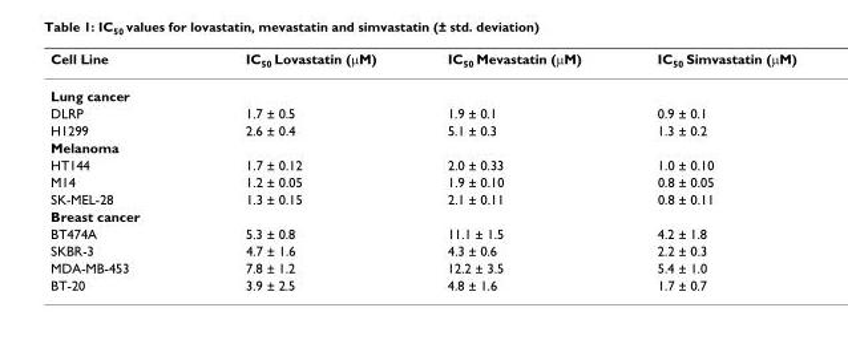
<table><thead><tr><td>Cell Line</td><td>IC<sub>50</sub> Lovastatin (μM)</td><td>IC<sub>50</sub> Mevastatin (μM)</td><td>IC<sub>50</sub> Simvastatin (μM)</td></tr></thead><tbody><tr><td colspan="4">Lung cancer</td></tr><tr><td>DLRP</td><td>1.7 ± 0.5</td><td>1.9 ± 0.1</td><td>0.9 ± 0.1</td></tr><tr><td>H1299</td><td>2.6 ± 0.4</td><td>5.1 ± 0.3</td><td>1.3 ± 0.2</td></tr><tr><td colspan="4">Melanoma</td></tr><tr><td>HT144</td><td>1.7 ± 0.12</td><td>2.0 ± 0.33</td><td>1.0 ± 0.10</td></tr><tr><td>M14</td><td>1.2 ± 0.05</td><td>1.9 ± 0.10</td><td>0.8 ± 0.05</td></tr><tr><td>SK-MEL-28</td><td>1.3 ± 0.15</td><td>2.1 ± 0.11</td><td>0.8 ± 0.11</td></tr><tr><td colspan="4">Breast cancer</td></tr><tr><td>BT474A</td><td>5.3 ± 0.8</td><td>11.1 ± 1.5</td><td>4.2 ± 1.8</td></tr><tr><td>SKBR-3</td><td>4.7 ± 1.6</td><td>4.3 ± 0.6</td><td>2.2 ± 0.3</td></tr><tr><td>MDA-MB-453</td><td>7.8 ± 1.2</td><td>12.2 ± 3.5</td><td>5.4 ± 1.0</td></tr><tr><td>BT-20</td><td>3.9 ± 2.5</td><td>4.8 ± 1.6</td><td>1.7 ± 0.7</td></tr></tbody></table>